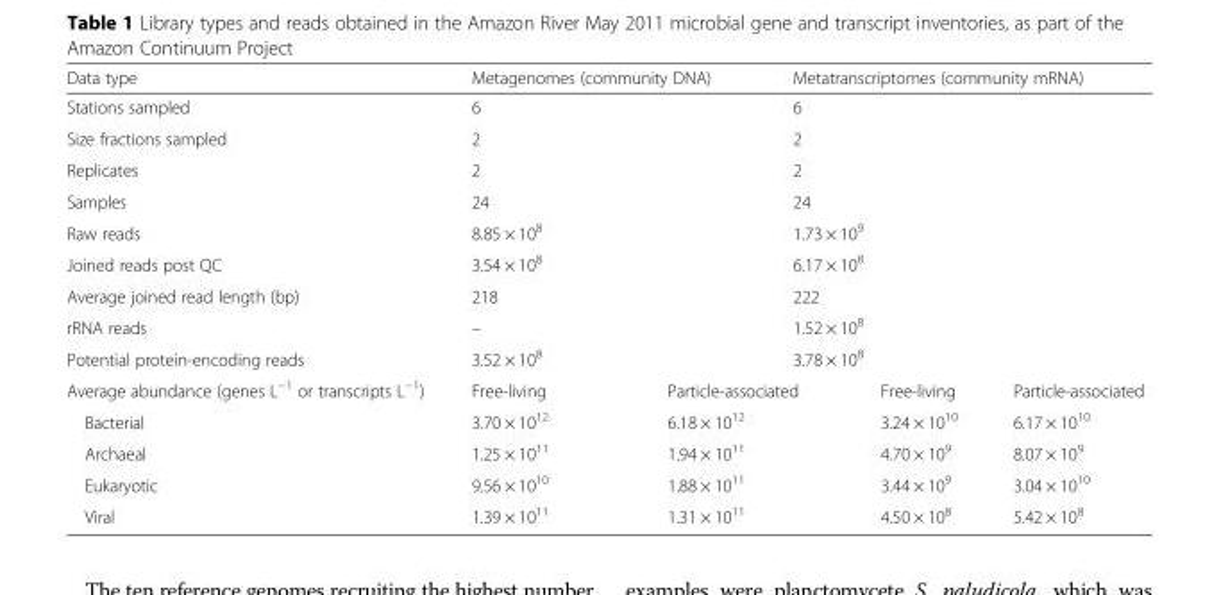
<table><thead><tr><td>Data type</td><td colspan="2">Metagenomes (community DNA)</td><td colspan="3">Metatranscriptomes (community mRNA)</td></tr></thead><tbody><tr><td>Stations sampled</td><td colspan="2">6</td><td colspan="3">6</td></tr><tr><td>Size fractions sampled</td><td colspan="2">2</td><td colspan="3">2</td></tr><tr><td>Replicates</td><td colspan="2">2</td><td colspan="3">2</td></tr><tr><td>Samples</td><td colspan="2">24</td><td colspan="3">24</td></tr><tr><td>Raw reads</td><td colspan="2">8.85 × 10<sup>8</sup></td><td colspan="3">1.73 × 10<sup>9</sup></td></tr><tr><td>Joined reads post QC</td><td colspan="2">3.54 × 10<sup>8</sup></td><td colspan="3">6.17 × 10<sup>8</sup></td></tr><tr><td>Average joined read length (bp)</td><td colspan="2">218</td><td colspan="3">222</td></tr><tr><td>rRNA reads</td><td colspan="2">–</td><td colspan="3">1.52 × 10<sup>8</sup></td></tr><tr><td>Potential protein-encoding reads</td><td colspan="2">3.52 × 10<sup>8</sup></td><td colspan="3">3.78 × 10<sup>8</sup></td></tr><tr><td>Average abundance (genes L<sup>−1</sup> or transcripts L<sup>−1</sup>)</td><td>Free-living</td><td colspan="2">Particle-associated</td><td>Free-living</td><td>Particle-associated</td></tr><tr><td>Bacterial</td><td>3.70 × 10<sup>12</sup></td><td colspan="2">6.18 × 10<sup>12</sup></td><td>3.24 × 10<sup>10</sup></td><td>6.17 × 10<sup>10</sup></td></tr><tr><td>Archaeal</td><td>1.25 × 10<sup>11</sup></td><td colspan="2">1.94 × 10<sup>11</sup></td><td>4.70 × 10<sup>9</sup></td><td>8.07 × 10<sup>9</sup></td></tr><tr><td>Eukaryotic</td><td>9.56 × 10<sup>10</sup></td><td colspan="2">1.88 × 10<sup>11</sup></td><td>3.44 × 10<sup>9</sup></td><td>3.04 × 10<sup>10</sup></td></tr><tr><td>Viral</td><td>1.39 × 10<sup>11</sup></td><td colspan="2">1.31 × 10<sup>11</sup></td><td>4.50 × 10<sup>8</sup></td><td>5.42 × 10<sup>8</sup></td></tr></tbody></table>